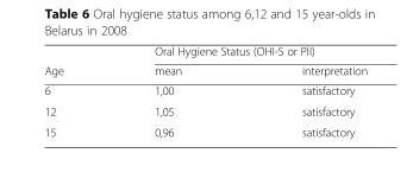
<table><thead><tr><td rowspan="2">Age</td><td colspan="2">Oral Hygiene Status (OHI-S or PlI)</td></tr><tr><td>mean</td><td>interpretation</td></tr></thead><tbody><tr><td>6</td><td>1,00</td><td>satisfactory</td></tr><tr><td>12</td><td>1,05</td><td>satisfactory</td></tr><tr><td>15</td><td>0,96</td><td>satisfactory</td></tr></tbody></table>